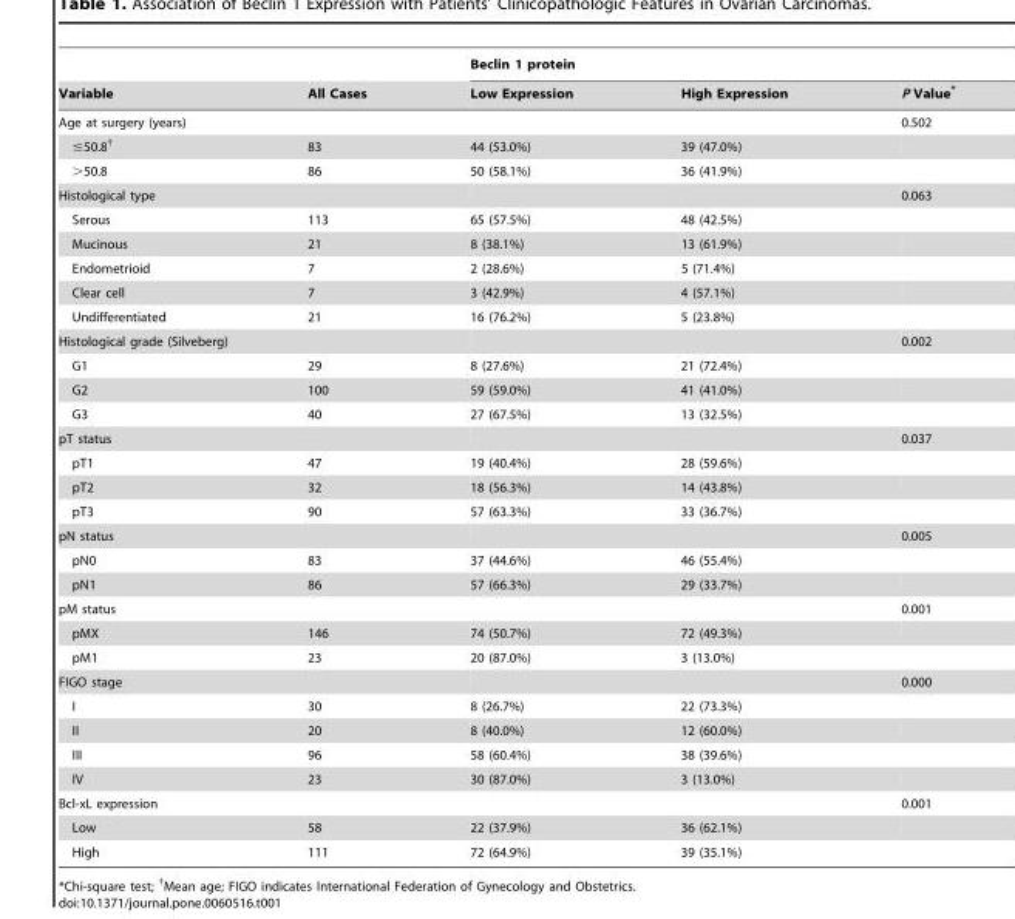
<table><thead><tr><td rowspan="2">Variable</td><td rowspan="2">All Cases</td><td colspan="3">Beclin 1 protein</td></tr><tr><td>Low Expression</td><td>High Expression</td><td>P Value*</td></tr></thead><tbody><tr><td>Age at surgery (years)</td><td></td><td></td><td></td><td>0.502</td></tr><tr><td>≤50.8<sup>†</sup></td><td>83</td><td>44 (53.0%)</td><td>39 (47.0%)</td><td></td></tr><tr><td>&gt;50.8</td><td>86</td><td>50 (58.1%)</td><td>36 (41.9%)</td><td></td></tr><tr><td>Histological type</td><td></td><td></td><td></td><td>0.063</td></tr><tr><td>Serous</td><td>113</td><td>65 (57.5%)</td><td>48 (42.5%)</td><td></td></tr><tr><td>Mucinous</td><td>21</td><td>8 (38.1%)</td><td>13 (61.9%)</td><td></td></tr><tr><td>Endometrioid</td><td>7</td><td>2 (28.6%)</td><td>5 (71.4%)</td><td></td></tr><tr><td>Clear cell</td><td>7</td><td>3 (42.9%)</td><td>4 (57.1%)</td><td></td></tr><tr><td>Undifferentiated</td><td>21</td><td>16 (76.2%)</td><td>5 (23.8%)</td><td></td></tr><tr><td>Histological grade (Silveberg)</td><td></td><td></td><td></td><td>0.002</td></tr><tr><td>G1</td><td>29</td><td>8 (27.6%)</td><td>21 (72.4%)</td><td></td></tr><tr><td>G2</td><td>100</td><td>59 (59.0%)</td><td>41 (41.0%)</td><td></td></tr><tr><td>G3</td><td>40</td><td>27 (67.5%)</td><td>13 (32.5%)</td><td></td></tr><tr><td>pT status</td><td></td><td></td><td></td><td>0.037</td></tr><tr><td>pT1</td><td>47</td><td>19 (40.4%)</td><td>28 (59.6%)</td><td></td></tr><tr><td>pT2</td><td>32</td><td>18 (56.3%)</td><td>14 (43.8%)</td><td></td></tr><tr><td>pT3</td><td>90</td><td>57 (63.3%)</td><td>33 (36.7%)</td><td></td></tr><tr><td>pN status</td><td></td><td></td><td></td><td>0.005</td></tr><tr><td>pN0</td><td>83</td><td>37 (44.6%)</td><td>46 (55.4%)</td><td></td></tr><tr><td>pN1</td><td>86</td><td>57 (66.3%)</td><td>29 (33.7%)</td><td></td></tr><tr><td>pM status</td><td></td><td></td><td></td><td>0.001</td></tr><tr><td>pMX</td><td>146</td><td>74 (50.7%)</td><td>72 (49.3%)</td><td></td></tr><tr><td>pM1</td><td>23</td><td>20 (87.0%)</td><td>3 (13.0%)</td><td></td></tr><tr><td>FIGO stage</td><td></td><td></td><td></td><td>0.000</td></tr><tr><td>I</td><td>30</td><td>8 (26.7%)</td><td>22 (73.3%)</td><td></td></tr><tr><td>II</td><td>20</td><td>8 (40.0%)</td><td>12 (60.0%)</td><td></td></tr><tr><td>III</td><td>96</td><td>58 (60.4%)</td><td>38 (39.6%)</td><td></td></tr><tr><td>IV</td><td>23</td><td>30 (87.0%)</td><td>3 (13.0%)</td><td></td></tr><tr><td>Bcl-xL expression</td><td></td><td></td><td></td><td>0.001</td></tr><tr><td>Low</td><td>58</td><td>22 (37.9%)</td><td>36 (62.1%)</td><td></td></tr><tr><td>High</td><td>111</td><td>72 (64.9%)</td><td>39 (35.1%)</td><td></td></tr></tbody></table>